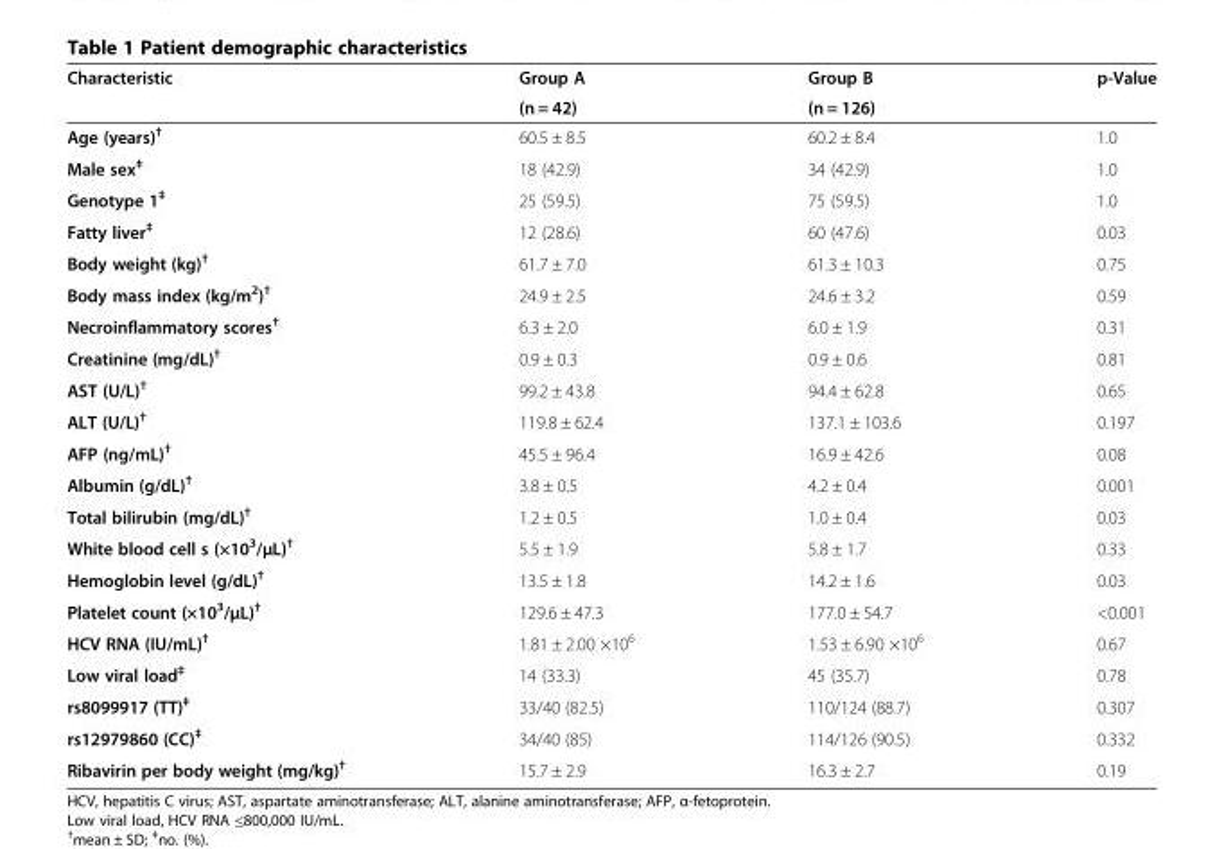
<table><thead><tr><td rowspan="2">Characteristic</td><td rowspan="2">Group A (n = 42)</td><td rowspan="2">Group B (n = 126)</td><td rowspan="2">p-Value</td></tr><tr></tr></thead><tbody><tr><td>Age (years)<sup>†</sup></td><td>60.5 ± 8.5</td><td>60.2 ± 8.4</td><td>1.0</td></tr><tr><td>Male sex<sup>‡</sup></td><td>18 (42.9)</td><td>34 (42.9)</td><td>1.0</td></tr><tr><td>Genotype 1<sup>‡</sup></td><td>25 (59.5)</td><td>75 (59.5)</td><td>1.0</td></tr><tr><td>Fatty liver<sup>‡</sup></td><td>12 (28.6)</td><td>60 (47.6)</td><td>0.03</td></tr><tr><td>Body weight (kg)<sup>†</sup></td><td>61.7 ± 7.0</td><td>61.3 ± 10.3</td><td>0.75</td></tr><tr><td>Body mass index (kg/m<sup>2</sup>)<sup>†</sup></td><td>24.9 ± 2.5</td><td>24.6 ± 3.2</td><td>0.59</td></tr><tr><td>Necroinflammatory scores<sup>†</sup></td><td>6.3 ± 2.0</td><td>6.0 ± 1.9</td><td>0.31</td></tr><tr><td>Creatinine (mg/dL)<sup>†</sup></td><td>0.9 ± 0.3</td><td>0.9 ± 0.6</td><td>0.81</td></tr><tr><td>AST (U/L)<sup>†</sup></td><td>99.2 ± 43.8</td><td>94.4 ± 62.8</td><td>0.65</td></tr><tr><td>ALT (U/L)<sup>†</sup></td><td>119.8 ± 62.4</td><td>137.1 ± 103.6</td><td>0.197</td></tr><tr><td>AFP (ng/mL)<sup>†</sup></td><td>45.5 ± 96.4</td><td>16.9 ± 42.6</td><td>0.08</td></tr><tr><td>Albumin (g/dL)<sup>†</sup></td><td>3.8 ± 0.5</td><td>4.2 ± 0.4</td><td>0.001</td></tr><tr><td>Total bilirubin (mg/dL)<sup>†</sup></td><td>1.2 ± 0.5</td><td>1.0 ± 0.4</td><td>0.03</td></tr><tr><td>White blood cell s (×10<sup>3</sup>/μL)<sup>†</sup></td><td>5.5 ± 1.9</td><td>5.8 ± 1.7</td><td>0.33</td></tr><tr><td>Hemoglobin level (g/dL)<sup>†</sup></td><td>13.5 ± 1.8</td><td>14.2 ± 1.6</td><td>0.03</td></tr><tr><td>Platelet count (×10<sup>3</sup>/μL)<sup>†</sup></td><td>129.6 ± 47.3</td><td>177.0 ± 54.7</td><td>&lt;0.001</td></tr><tr><td>HCV RNA (IU/mL)<sup>†</sup></td><td>1.81 ± 2.00 ×10<sup>6</sup></td><td>1.53 ± 6.90 ×10<sup>6</sup></td><td>0.67</td></tr><tr><td>Low viral load<sup>‡</sup></td><td>14 (33.3)</td><td>45 (35.7)</td><td>0.78</td></tr><tr><td>rs8099917 (TT)<sup>‡</sup></td><td>33/40 (82.5)</td><td>110/124 (88.7)</td><td>0.307</td></tr><tr><td>rs12979860 (CC)<sup>‡</sup></td><td>34/40 (85)</td><td>114/126 (90.5)</td><td>0.332</td></tr><tr><td>Ribavirin per body weight (mg/kg)<sup>†</sup></td><td>15.7 ± 2.9</td><td>16.3 ± 2.7</td><td>0.19</td></tr></tbody></table>